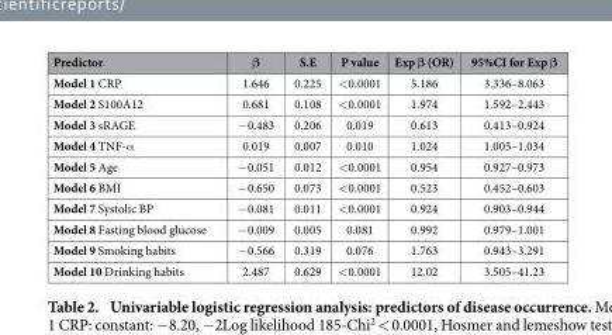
<table><thead><tr><td>Predictor</td><td>β</td><td>S.E</td><td>P value</td><td>Exp β (OR)</td><td>95%CI for Exp β</td></tr></thead><tbody><tr><td>Model 1 CRP</td><td>1.646</td><td>0.225</td><td>&lt; 0.0001</td><td>5.186</td><td>3.336–8.063</td></tr><tr><td>Model 2 S100A12</td><td>0.681</td><td>0.108</td><td>&lt; 0.0001</td><td>1.974</td><td>1.592–2.443</td></tr><tr><td>Model 3 sRAGE</td><td>− 0.483</td><td>0.206</td><td>0.019</td><td>0.613</td><td>0.413–0.924</td></tr><tr><td>Model 4 TNF-α</td><td>0.019</td><td>0.007</td><td>0.010</td><td>1.024</td><td>1.005–1.034</td></tr><tr><td>Model 5 Age</td><td>− 0.051</td><td>0.012</td><td>&lt; 0.0001</td><td>0.954</td><td>0.927–0.973</td></tr><tr><td>Model 6 BMI</td><td>− 0.650</td><td>0.073</td><td>&lt; 0.0001</td><td>0.523</td><td>0.452–0.603</td></tr><tr><td>Model 7 Systolic BP</td><td>− 0.081</td><td>0.011</td><td>&lt; 0.0001</td><td>0.924</td><td>0.903–0.944</td></tr><tr><td>Model 8 Fasting blood glucose</td><td>− 0.009</td><td>0.005</td><td>0.081</td><td>0.992</td><td>0.979–1.001</td></tr><tr><td>Model 9 Smoking habits</td><td>− 0.566</td><td>0.319</td><td>0.076</td><td>1.763</td><td>0.943–3.291</td></tr><tr><td>Model 10 Drinking habits</td><td>2.487</td><td>0.629</td><td>&lt; 0.0001</td><td>12.02</td><td>3.505–41.23</td></tr></tbody></table>